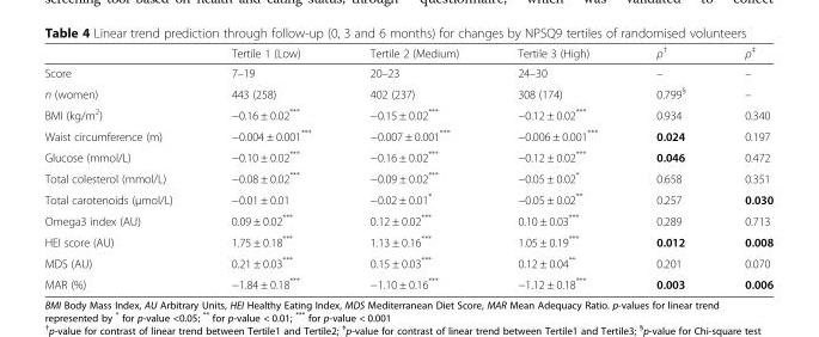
<table><thead><tr><td></td><td>Tertile 1 (Low)</td><td>Tertile 2 (Medium)</td><td>Tertile 3 (High)</td><td>ρ<sup>†</sup></td><td>ρ<sup>‡</sup></td></tr></thead><tbody><tr><td>Score</td><td>7–19</td><td>20–23</td><td>24–30</td><td>–</td><td>–</td></tr><tr><td>n (women)</td><td>443 (258)</td><td>402 (237)</td><td>308 (174)</td><td>0.799<sup>§</sup></td><td>–</td></tr><tr><td>BMI (kg/m<sup>2</sup>)</td><td>−0.16 ± 0.02***</td><td>−0.15 ± 0.02***</td><td>−0.12 ± 0.02***</td><td>0.934</td><td>0.340</td></tr><tr><td>Waist circumference (m)</td><td>−0.004 ± 0.001***</td><td>−0.007 ± 0.001***</td><td>−0.006 ± 0.001***</td><td>0.024</td><td>0.197</td></tr><tr><td>Glucose (mmol/L)</td><td>−0.10 ± 0.02***</td><td>−0.16 ± 0.02***</td><td>−0.12 ± 0.02***</td><td>0.046</td><td>0.472</td></tr><tr><td>Total colesterol (mmol/L)</td><td>−0.08 ± 0.02***</td><td>−0.09 ± 0.02***</td><td>−0.05 ± 0.02*</td><td>0.658</td><td>0.351</td></tr><tr><td>Total carotenoids (μmol/L)</td><td>−0.01 ± 0.01</td><td>−0.02 ± 0.01*</td><td>−0.05 ± 0.02**</td><td>0.257</td><td>0.030</td></tr><tr><td>Omega3 index (AU)</td><td>0.09 ± 0.02***</td><td>0.12 ± 0.02***</td><td>0.10 ± 0.03***</td><td>0.289</td><td>0.713</td></tr><tr><td>HEI score (AU)</td><td>1.75 ± 0.18***</td><td>1.13 ± 0.16***</td><td>1.05 ± 0.19***</td><td>0.012</td><td>0.008</td></tr><tr><td>MDS (AU)</td><td>0.21 ± 0.03***</td><td>0.15 ± 0.03***</td><td>0.12 ± 0.04**</td><td>0.201</td><td>0.070</td></tr><tr><td>MAR (%)</td><td>−1.84 ± 0.18***</td><td>−1.10 ± 0.16***</td><td>−1.12 ± 0.18***</td><td>0.003</td><td>0.006</td></tr></tbody></table>